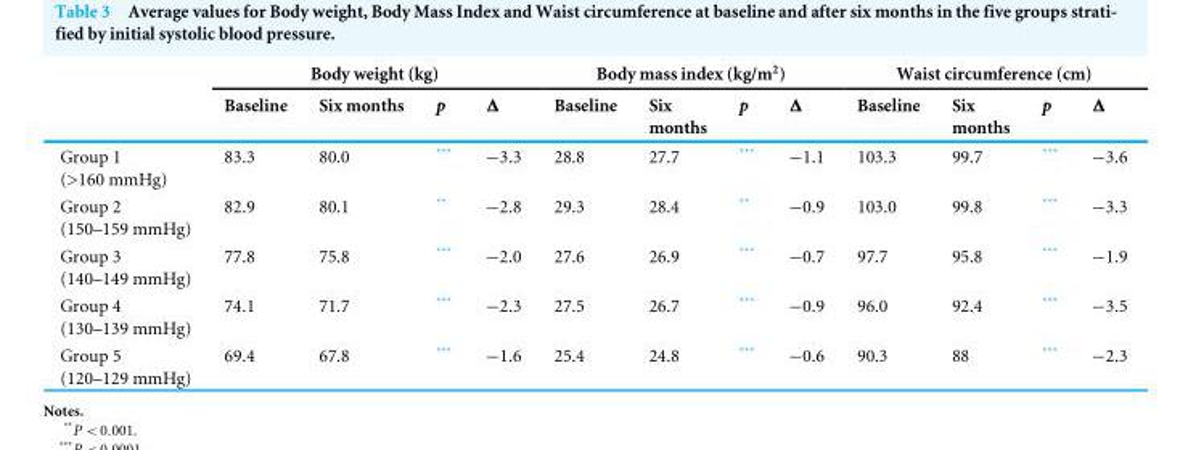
<table><thead><tr><td rowspan="2"></td><td colspan="4">Body weight (kg)</td><td colspan="4">Body mass index (kg/m<sup>2</sup>)</td><td colspan="4">Waist circumference (cm)</td></tr><tr><td>Baseline</td><td>Six months</td><td>p</td><td>Δ</td><td>Baseline</td><td>Six months</td><td>p</td><td>Δ</td><td>Baseline</td><td>Six months</td><td>p</td><td>Δ</td></tr></thead><tbody><tr><td>Group 1 (&gt;160 mmHg)</td><td>83.3</td><td>80.0</td><td>***</td><td>−3.3</td><td>28.8</td><td>27.7</td><td>***</td><td>−1.1</td><td>103.3</td><td>99.7</td><td>***</td><td>−3.6</td></tr><tr><td>Group 2 (150–159 mmHg)</td><td>82.9</td><td>80.1</td><td>**</td><td>−2.8</td><td>29.3</td><td>28.4</td><td>**</td><td>−0.9</td><td>103.0</td><td>99.8</td><td>***</td><td>−3.3</td></tr><tr><td>Group 3 (140–149 mmHg)</td><td>77.8</td><td>75.8</td><td>***</td><td>−2.0</td><td>27.6</td><td>26.9</td><td>***</td><td>−0.7</td><td>97.7</td><td>95.8</td><td>***</td><td>−1.9</td></tr><tr><td>Group 4 (130–139 mmHg)</td><td>74.1</td><td>71.7</td><td>***</td><td>−2.3</td><td>27.5</td><td>26.7</td><td>***</td><td>−0.9</td><td>96.0</td><td>92.4</td><td>***</td><td>−3.5</td></tr><tr><td>Group 5 (120–129 mmHg)</td><td>69.4</td><td>67.8</td><td>***</td><td>−1.6</td><td>25.4</td><td>24.8</td><td>***</td><td>−0.6</td><td>90.3</td><td>88</td><td>***</td><td>−2.3</td></tr></tbody></table>